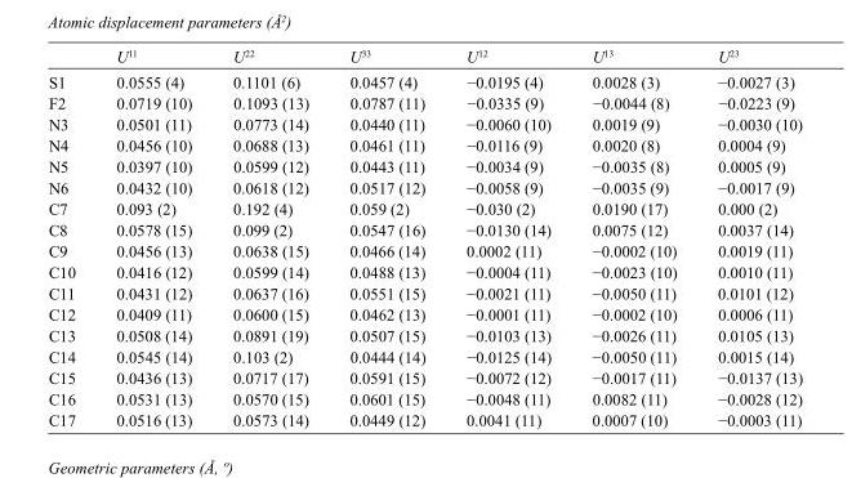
<table><thead><tr><td></td><td>U<sup>11</sup></td><td>U<sup>22</sup></td><td>U<sup>33</sup></td><td>U<sup>12</sup></td><td>U<sup>13</sup></td><td>U<sup>23</sup></td></tr></thead><tbody><tr><td>S1</td><td>0.0555 (4)</td><td>0.1101 (6)</td><td>0.0457 (4)</td><td>−0.0195 (4)</td><td>0.0028 (3)</td><td>−0.0027 (3)</td></tr><tr><td>F2</td><td>0.0719 (10)</td><td>0.1093 (13)</td><td>0.0787 (11)</td><td>−0.0335 (9)</td><td>−0.0044 (8)</td><td>−0.0223 (9)</td></tr><tr><td>N3</td><td>0.0501 (11)</td><td>0.0773 (14)</td><td>0.0440 (11)</td><td>−0.0060 (10)</td><td>0.0019 (9)</td><td>−0.0030 (10)</td></tr><tr><td>N4</td><td>0.0456 (10)</td><td>0.0688 (13)</td><td>0.0461 (11)</td><td>−0.0116 (9)</td><td>0.0020 (8)</td><td>0.0004 (9)</td></tr><tr><td>N5</td><td>0.0397 (10)</td><td>0.0599 (12)</td><td>0.0443 (11)</td><td>−0.0034 (9)</td><td>−0.0035 (8)</td><td>0.0005 (9)</td></tr><tr><td>N6</td><td>0.0432 (10)</td><td>0.0618 (12)</td><td>0.0517 (12)</td><td>−0.0058 (9)</td><td>−0.0035 (9)</td><td>−0.0017 (9)</td></tr><tr><td>C7</td><td>0.093 (2)</td><td>0.192 (4)</td><td>0.059 (2)</td><td>−0.030 (2)</td><td>0.0190 (17)</td><td>0.000 (2)</td></tr><tr><td>C8</td><td>0.0578 (15)</td><td>0.099 (2)</td><td>0.0547 (16)</td><td>−0.0130 (14)</td><td>0.0075 (12)</td><td>0.0037 (14)</td></tr><tr><td>C9</td><td>0.0456 (13)</td><td>0.0638 (15)</td><td>0.0466 (14)</td><td>0.0002 (11)</td><td>−0.0002 (10)</td><td>0.0019 (11)</td></tr><tr><td>C10</td><td>0.0416 (12)</td><td>0.0599 (14)</td><td>0.0488 (13)</td><td>−0.0004 (11)</td><td>−0.0023 (10)</td><td>0.0010 (11)</td></tr><tr><td>C11</td><td>0.0431 (12)</td><td>0.0637 (16)</td><td>0.0551 (15)</td><td>−0.0021 (11)</td><td>−0.0050 (11)</td><td>0.0101 (12)</td></tr><tr><td>C12</td><td>0.0409 (11)</td><td>0.0600 (15)</td><td>0.0462 (13)</td><td>−0.0001 (11)</td><td>−0.0002 (10)</td><td>0.0006 (11)</td></tr><tr><td>C13</td><td>0.0508 (14)</td><td>0.0891 (19)</td><td>0.0507 (15)</td><td>−0.0103 (13)</td><td>−0.0026 (11)</td><td>0.0105 (13)</td></tr><tr><td>C14</td><td>0.0545 (14)</td><td>0.103 (2)</td><td>0.0444 (14)</td><td>−0.0125 (14)</td><td>−0.0050 (11)</td><td>0.0015 (14)</td></tr><tr><td>C15</td><td>0.0436 (13)</td><td>0.0717 (17)</td><td>0.0591 (15)</td><td>−0.0072 (12)</td><td>−0.0017 (11)</td><td>−0.0137 (13)</td></tr><tr><td>C16</td><td>0.0531 (13)</td><td>0.0570 (15)</td><td>0.0601 (15)</td><td>−0.0048 (11)</td><td>0.0082 (11)</td><td>−0.0028 (12)</td></tr><tr><td>C17</td><td>0.0516 (13)</td><td>0.0573 (14)</td><td>0.0449 (12)</td><td>0.0041 (11)</td><td>0.0007 (10)</td><td>−0.0003 (11)</td></tr></tbody></table>